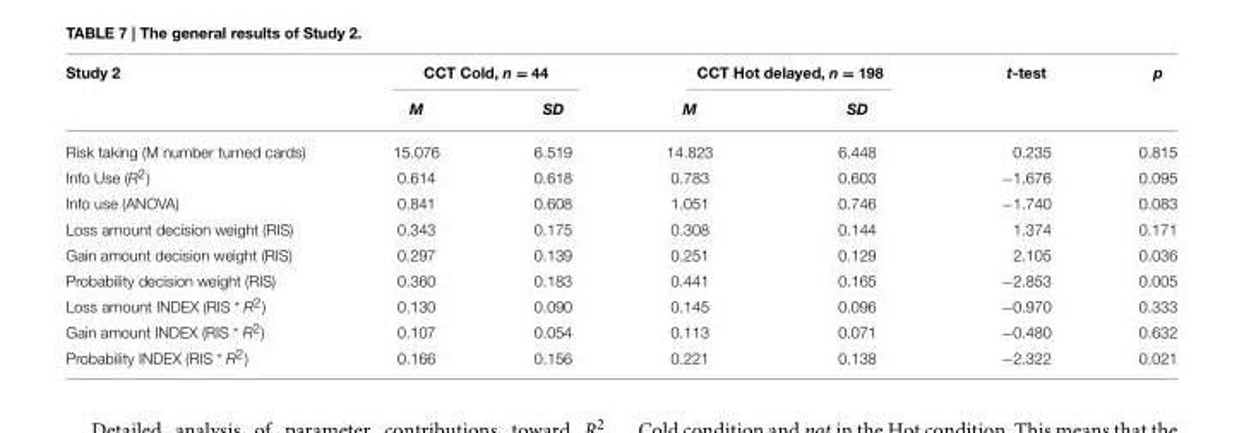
<table><thead><tr><td rowspan="2">Study 2</td><td colspan="2">CCT Cold, n = 44</td><td colspan="2">CCT Hot delayed, n = 198</td><td rowspan="2">t-test</td><td rowspan="2">p</td></tr><tr><td>M</td><td>SD</td><td>M</td><td>SD</td></tr></thead><tbody><tr><td>Risk taking (M number turned cards)</td><td>15.076</td><td>6.519</td><td>14.823</td><td>6.448</td><td>0.235</td><td>0.815</td></tr><tr><td>Info Use (R<sup>2</sup>)</td><td>0.614</td><td>0.618</td><td>0.783</td><td>0.603</td><td>−1.676</td><td>0.095</td></tr><tr><td>Info use (ANOVA)</td><td>0.841</td><td>0.608</td><td>1.051</td><td>0.746</td><td>−1.740</td><td>0.083</td></tr><tr><td>Loss amount decision weight (RIS)</td><td>0.343</td><td>0.175</td><td>0.308</td><td>0.144</td><td>1.374</td><td>0.171</td></tr><tr><td>Gain amount decision weight (RIS)</td><td>0.297</td><td>0.139</td><td>0.251</td><td>0.129</td><td>2.105</td><td>0.036</td></tr><tr><td>Probability decision weight (RIS)</td><td>0.360</td><td>0.183</td><td>0.441</td><td>0.165</td><td>−2.853</td><td>0.005</td></tr><tr><td>Loss amount INDEX (RIS * R<sup>2</sup>)</td><td>0.130</td><td>0.090</td><td>0.145</td><td>0.096</td><td>−0.970</td><td>0.333</td></tr><tr><td>Gain amount INDEX (RIS * R<sup>2</sup>)</td><td>0.107</td><td>0.054</td><td>0.113</td><td>0.071</td><td>−0.480</td><td>0.632</td></tr><tr><td>Probability INDEX (RIS * R<sup>2</sup>)</td><td>0.166</td><td>0.156</td><td>0.221</td><td>0.138</td><td>−2.322</td><td>0.021</td></tr></tbody></table>